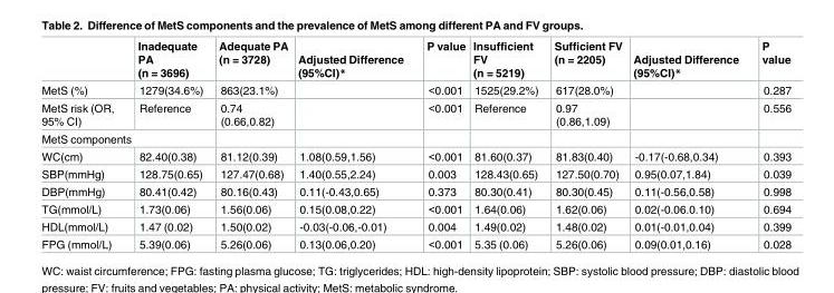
<table><thead><tr><td></td><td>Inadequate PA (n = 3696)</td><td>Adequate PA (n = 3728)</td><td>Adjusted Difference (95%CI)*</td><td>P value</td><td>Insufficient FV (n = 5219)</td><td>Sufficient FV (n = 2205)</td><td>Adjusted Difference (95%CI)*</td><td>P value</td></tr></thead><tbody><tr><td>MetS (%)</td><td>1279(34.6%)</td><td>863(23.1%)</td><td></td><td>&lt;0.001</td><td>1525(29.2%)</td><td>617(28.0%)</td><td></td><td>0.287</td></tr><tr><td>MetS risk (OR, 95% CI)</td><td>Reference</td><td>0.74 (0.66,0.82)</td><td></td><td>&lt;0.001</td><td>Reference</td><td>0.97 (0.86,1.09)</td><td></td><td>0.556</td></tr><tr><td colspan="9">MetS components</td></tr><tr><td>WC(cm)</td><td>82.40(0.38)</td><td>81.12(0.39)</td><td>1.08(0.59,1.56)</td><td>&lt;0.001</td><td>81.60(0.37)</td><td>81.83(0.40)</td><td>-0.17(-0.68,0.34)</td><td>0.393</td></tr><tr><td>SBP(mmHg)</td><td>128.75(0.65)</td><td>127.47(0.68)</td><td>1.40(0.55,2.24)</td><td>0.003</td><td>128.43(0.65)</td><td>127.50(0.70)</td><td>0.95(0.07,1.84)</td><td>0.039</td></tr><tr><td>DBP(mmHg)</td><td>80.41(0.42)</td><td>80.16(0.43)</td><td>0.11(-0.43,0.65)</td><td>0.373</td><td>80.30(0.41)</td><td>80.30(0.45)</td><td>0.11(-0.56,0.58)</td><td>0.998</td></tr><tr><td>TG(mmol/L)</td><td>1.73(0.06)</td><td>1.56(0.06)</td><td>0.15(0.08,0.22)</td><td>&lt;0.001</td><td>1.64(0.06)</td><td>1.62(0.06)</td><td>0.02(-0.06.0.10)</td><td>0.694</td></tr><tr><td>HDL(mmol/L)</td><td>1.47 (0.02)</td><td>1.50(0.02)</td><td>-0.03(-0.06,-0.01)</td><td>0.004</td><td>1.49(0.02)</td><td>1.48(0.02)</td><td>0.01(-0.01,0.04)</td><td>0.399</td></tr><tr><td>FPG (mmol/L)</td><td>5.39(0.06)</td><td>5.26(0.06)</td><td>0.13(0.06,0.20)</td><td>&lt;0.001</td><td>5.35 (0.06)</td><td>5.26(0.06)</td><td>0.09(0.01,0.16)</td><td>0.028</td></tr></tbody></table>